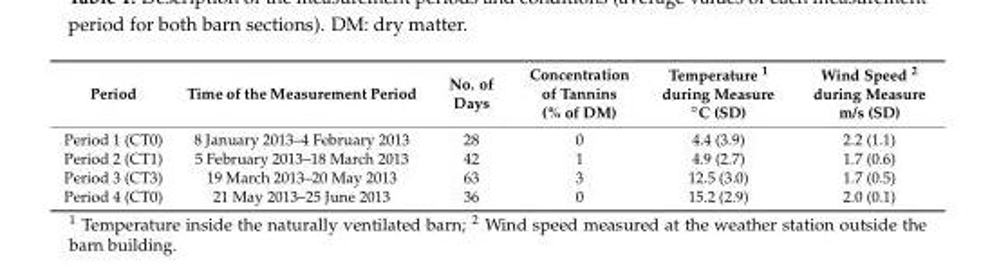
<table><thead><tr><td>Period</td><td>Time of the Measurement Period</td><td>No. of Days</td><td>Concentration of Tannins (% of DM)</td><td>Temperature 1 during Measure ◦C (SD)</td><td>Wind Speed <sup>2</sup> during Measure m/s (SD)</td></tr></thead><tbody><tr><td>Period 1 (CT0)</td><td>8 January 2013–4 February 2013</td><td>28</td><td>0</td><td>4.4 (3.9)</td><td>2.2 (1.1)</td></tr><tr><td>Period 2 (CT1)</td><td>5 February 2013–18 March 2013</td><td>42</td><td>1</td><td>4.9 (2.7)</td><td>1.7 (0.6)</td></tr><tr><td>Period 3 (CT3)</td><td>19 March 2013–20 May 2013</td><td>63</td><td>3</td><td>12.5 (3.0)</td><td>1.7 (0.5)</td></tr><tr><td>Period 4 (CT0)</td><td>21 May 2013–25 June 2013</td><td>36</td><td>0</td><td>15.2 (2.9)</td><td>2.0 (0.1)</td></tr></tbody></table>